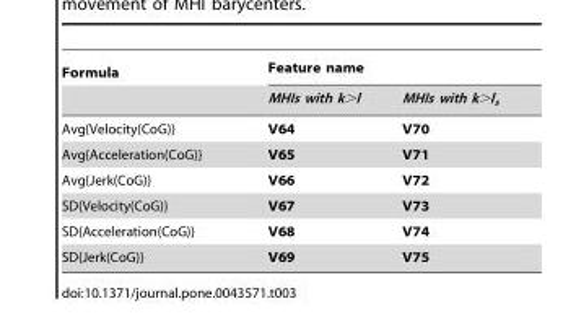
<table><thead><tr><td rowspan="2">Formula</td><td colspan="2">Feature name</td></tr><tr><td>MHIs with k&gt;l</td><td>MHIs with k&gt;l<sub>s</sub></td></tr></thead><tbody><tr><td>Avg{Velocity(CoG)}</td><td>V64</td><td>V70</td></tr><tr><td>Avg{Acceleration(CoG)}</td><td>V65</td><td>V71</td></tr><tr><td>Avg{Jerk(CoG)}</td><td>V66</td><td>V72</td></tr><tr><td>SD{Velocity(CoG)}</td><td>V67</td><td>V73</td></tr><tr><td>SD{Acceleration(CoG)}</td><td>V68</td><td>V74</td></tr><tr><td>SD{Jerk(CoG)}</td><td>V69</td><td>V75</td></tr></tbody></table>